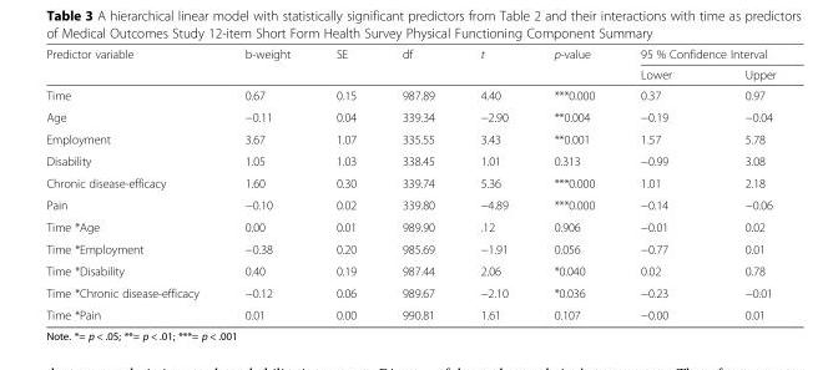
<table><thead><tr><td rowspan="2">Predictor variable</td><td rowspan="2">b-weight</td><td rowspan="2">SE</td><td rowspan="2">df</td><td rowspan="2">t</td><td rowspan="2">p-value</td><td colspan="2">95 % Confidence Interval</td></tr><tr><td>Lower</td><td>Upper</td></tr></thead><tbody><tr><td>Time</td><td>0.67</td><td>0.15</td><td>987.89</td><td>4.40</td><td>***0.000</td><td>0.37</td><td>0.97</td></tr><tr><td>Age</td><td>−0.11</td><td>0.04</td><td>339.34</td><td>−2.90</td><td>**0.004</td><td>−0.19</td><td>−0.04</td></tr><tr><td>Employment</td><td>3.67</td><td>1.07</td><td>335.55</td><td>3.43</td><td>**0.001</td><td>1.57</td><td>5.78</td></tr><tr><td>Disability</td><td>1.05</td><td>1.03</td><td>338.45</td><td>1.01</td><td>0.313</td><td>−0.99</td><td>3.08</td></tr><tr><td>Chronic disease-efficacy</td><td>1.60</td><td>0.30</td><td>339.74</td><td>5.36</td><td>***0.000</td><td>1.01</td><td>2.18</td></tr><tr><td>Pain</td><td>−0.10</td><td>0.02</td><td>339.80</td><td>−4.89</td><td>***0.000</td><td>−0.14</td><td>−0.06</td></tr><tr><td>Time *Age</td><td>0.00</td><td>0.01</td><td>989.90</td><td>.12</td><td>0.906</td><td>−0.01</td><td>0.02</td></tr><tr><td>Time *Employment</td><td>−0.38</td><td>0.20</td><td>985.69</td><td>−1.91</td><td>0.056</td><td>−0.77</td><td>0.01</td></tr><tr><td>Time *Disability</td><td>0.40</td><td>0.19</td><td>987.44</td><td>2.06</td><td>*0.040</td><td>0.02</td><td>0.78</td></tr><tr><td>Time *Chronic disease-efficacy</td><td>−0.12</td><td>0.06</td><td>989.67</td><td>−2.10</td><td>*0.036</td><td>−0.23</td><td>−0.01</td></tr><tr><td>Time *Pain</td><td>0.01</td><td>0.00</td><td>990.81</td><td>1.61</td><td>0.107</td><td>−0.00</td><td>0.01</td></tr></tbody></table>